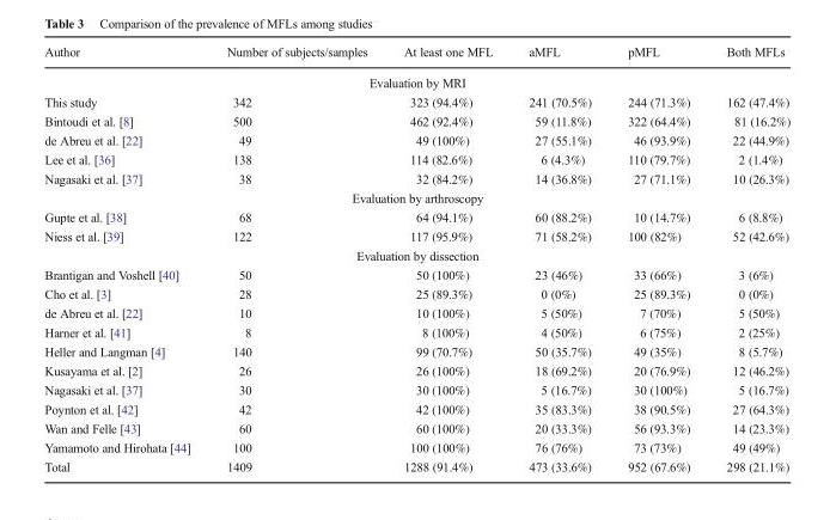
<table><thead><tr><td>Author</td><td>Number of subjects/samples</td><td>At least one MFL</td><td>aMFL</td><td>pMFL</td><td>Both MFLs</td></tr></thead><tbody><tr><td colspan="6">Evaluation by MRI</td></tr><tr><td>This study</td><td>342</td><td>323 (94.4%)</td><td>241 (70.5%)</td><td>244 (71.3%)</td><td>162 (47.4%)</td></tr><tr><td>Bintoudi et al. [8]</td><td>500</td><td>462 (92.4%)</td><td>59 (11.8%)</td><td>322 (64.4%)</td><td>81 (16.2%)</td></tr><tr><td>de Abreu et al. [22]</td><td>49</td><td>49 (100%)</td><td>27 (55.1%)</td><td>46 (93.9%)</td><td>22 (44.9%)</td></tr><tr><td>Lee et al. [36]</td><td>138</td><td>114 (82.6%)</td><td>6 (4.3%)</td><td>110 (79.7%)</td><td>2 (1.4%)</td></tr><tr><td>Nagasaki et al. [37]</td><td>38</td><td>32 (84.2%)</td><td>14 (36.8%)</td><td>27 (71.1%)</td><td>10 (26.3%)</td></tr><tr><td colspan="6">Evaluation by arthroscopy</td></tr><tr><td>Gupte et al. [38]</td><td>68</td><td>64 (94.1%)</td><td>60 (88.2%)</td><td>10 (14.7%)</td><td>6 (8.8%)</td></tr><tr><td>Niess et al. [39]</td><td>122</td><td>117 (95.9%)</td><td>71 (58.2%)</td><td>100 (82%)</td><td>52 (42.6%)</td></tr><tr><td colspan="6">Evaluation by dissection</td></tr><tr><td>Brantigan and Voshell [40]</td><td>50</td><td>50 (100%)</td><td>23 (46%)</td><td>33 (66%)</td><td>3 (6%)</td></tr><tr><td>Cho et al. [3]</td><td>28</td><td>25 (89.3%)</td><td>0 (0%)</td><td>25 (89.3%)</td><td>0 (0%)</td></tr><tr><td>de Abreu et al. [22]</td><td>10</td><td>10 (100%)</td><td>5 (50%)</td><td>7 (70%)</td><td>5 (50%)</td></tr><tr><td>Harner et al. [41]</td><td>8</td><td>8 (100%)</td><td>4 (50%)</td><td>6 (75%)</td><td>2 (25%)</td></tr><tr><td>Heller and Langman [4]</td><td>140</td><td>99 (70.7%)</td><td>50 (35.7%)</td><td>49 (35%)</td><td>8 (5.7%)</td></tr><tr><td>Kusayama et al. [2]</td><td>26</td><td>26 (100%)</td><td>18 (69.2%)</td><td>20 (76.9%)</td><td>12 (46.2%)</td></tr><tr><td>Nagasaki et al. [37]</td><td>30</td><td>30 (100%)</td><td>5 (16.7%)</td><td>30 (100%)</td><td>5 (16.7%)</td></tr><tr><td>Poynton et al. [42]</td><td>42</td><td>42 (100%)</td><td>35 (83.3%)</td><td>38 (90.5%)</td><td>27 (64.3%)</td></tr><tr><td>Wan and Felle [43]</td><td>60</td><td>60 (100%)</td><td>20 (33.3%)</td><td>56 (93.3%)</td><td>14 (23.3%)</td></tr><tr><td>Yamamoto and Hirohata [44]</td><td>100</td><td>100 (100%)</td><td>76 (76%)</td><td>73 (73%)</td><td>49 (49%)</td></tr><tr><td>Total</td><td>1409</td><td>1288 (91.4%)</td><td>473 (33.6%)</td><td>952 (67.6%)</td><td>298 (21.1%)</td></tr></tbody></table>